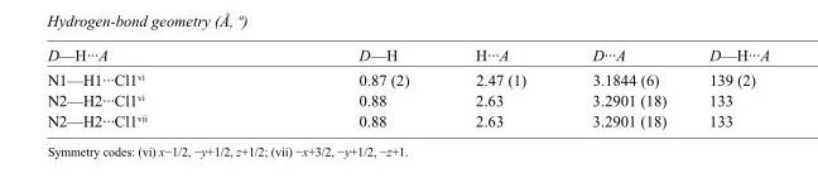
<table><tbody><tr><td>D—H···A</td><td>D—H</td><td>H···A</td><td>D···A</td><td>D—H···A</td></tr><tr><td>N1—H1···Cl1<sup>vi</sup></td><td>0.87 (2)</td><td>2.47 (1)</td><td>3.1844 (6)</td><td>139 (2)</td></tr><tr><td>N2—H2···Cl1<sup>vi</sup></td><td>0.88</td><td>2.63</td><td>3.2901 (18)</td><td>133</td></tr><tr><td>N2—H2···Cl1<sup>vii</sup></td><td>0.88</td><td>2.63</td><td>3.2901 (18)</td><td>133</td></tr></tbody></table>